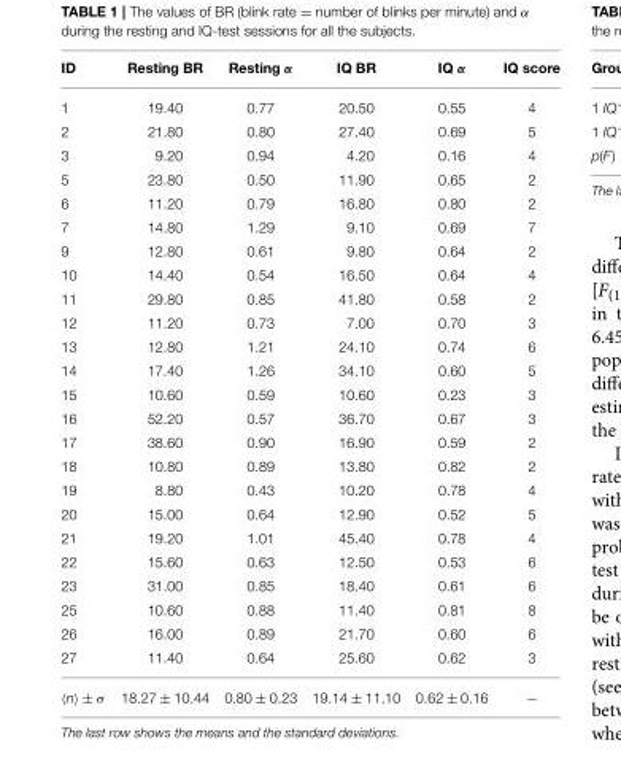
<table><thead><tr><td>ID</td><td>Resting BR</td><td>Resting α</td><td>IQ BR</td><td>IQ α</td><td>IQ score</td></tr></thead><tbody><tr><td>1</td><td>19.40</td><td>0.77</td><td>20.50</td><td>0.55</td><td>4</td></tr><tr><td>2</td><td>21.80</td><td>0.80</td><td>27.40</td><td>0.69</td><td>5</td></tr><tr><td>3</td><td>9.20</td><td>0.94</td><td>4.20</td><td>0.16</td><td>4</td></tr><tr><td>5</td><td>23.80</td><td>0.50</td><td>11.90</td><td>0.65</td><td>2</td></tr><tr><td>6</td><td>11.20</td><td>0.79</td><td>16.80</td><td>0.80</td><td>2</td></tr><tr><td>7</td><td>14.80</td><td>1.29</td><td>9.10</td><td>0.69</td><td>7</td></tr><tr><td>9</td><td>12.80</td><td>0.61</td><td>9.80</td><td>0.64</td><td>2</td></tr><tr><td>10</td><td>14.40</td><td>0.54</td><td>16.50</td><td>0.64</td><td>4</td></tr><tr><td>11</td><td>29.80</td><td>0.85</td><td>41.80</td><td>0.58</td><td>2</td></tr><tr><td>12</td><td>11.20</td><td>0.73</td><td>7.00</td><td>0.70</td><td>3</td></tr><tr><td>13</td><td>12.80</td><td>1.21</td><td>24.10</td><td>0.74</td><td>6</td></tr><tr><td>14</td><td>17.40</td><td>1.26</td><td>34.10</td><td>0.60</td><td>5</td></tr><tr><td>15</td><td>10.60</td><td>0.59</td><td>10.60</td><td>0.23</td><td>3</td></tr><tr><td>16</td><td>52.20</td><td>0.57</td><td>36.70</td><td>0.67</td><td>3</td></tr><tr><td>17</td><td>38.60</td><td>0.90</td><td>16.90</td><td>0.59</td><td>2</td></tr><tr><td>18</td><td>10.80</td><td>0.89</td><td>13.80</td><td>0.82</td><td>2</td></tr><tr><td>19</td><td>8.80</td><td>0.43</td><td>10.20</td><td>0.78</td><td>4</td></tr><tr><td>20</td><td>15.00</td><td>0.64</td><td>12.90</td><td>0.52</td><td>5</td></tr><tr><td>21</td><td>19.20</td><td>1.01</td><td>45.40</td><td>0.78</td><td>4</td></tr><tr><td>22</td><td>15.60</td><td>0.63</td><td>12.50</td><td>0.53</td><td>6</td></tr><tr><td>23</td><td>31.00</td><td>0.85</td><td>18.40</td><td>0.61</td><td>6</td></tr><tr><td>25</td><td>10.60</td><td>0.88</td><td>11.40</td><td>0.81</td><td>8</td></tr><tr><td>26</td><td>16.00</td><td>0.89</td><td>21.70</td><td>0.60</td><td>6</td></tr><tr><td>27</td><td>11.40</td><td>0.64</td><td>25.60</td><td>0.62</td><td>3</td></tr><tr><td>⟨n⟩ ± σ</td><td>18.27 ± 10.44</td><td>0.80 ± 0.23</td><td>19.14 ± 11.10</td><td>0.62 ± 0.16</td><td>−</td></tr></tbody></table>